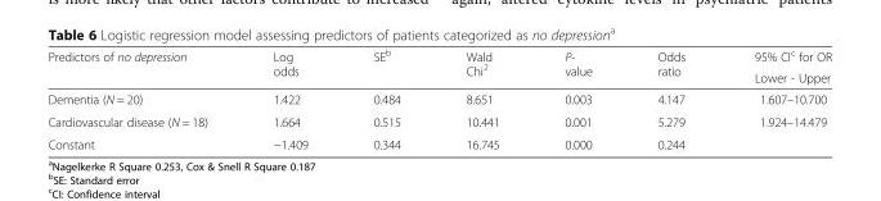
<table><thead><tr><td rowspan="2">Predictors of no depression</td><td rowspan="2">Log odds</td><td rowspan="2">SE<sup>b</sup></td><td rowspan="2">Wald Chi<sup>2</sup></td><td rowspan="2">P- value</td><td rowspan="2">Odds ratio</td><td rowspan="2">95% CI<sup>c</sup> for OR Lower - Upper</td></tr><tr></tr></thead><tbody><tr><td>Dementia (N = 20)</td><td>1.422</td><td>0.484</td><td>8.651</td><td>0.003</td><td>4.147</td><td>1.607–10.700</td></tr><tr><td>Cardiovascular disease (N = 18)</td><td>1.664</td><td>0.515</td><td>10.441</td><td>0.001</td><td>5.279</td><td>1.924–14.479</td></tr><tr><td>Constant</td><td>−1.409</td><td>0.344</td><td>16.745</td><td>0.000</td><td>0.244</td><td></td></tr></tbody></table>